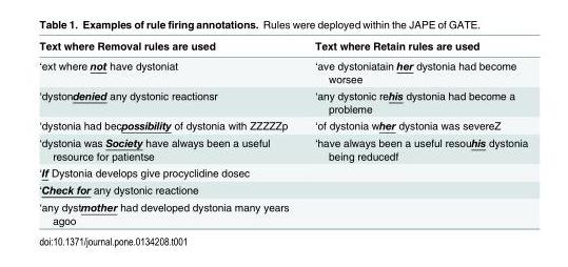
<table><thead><tr><td>Text where Removal rules are used</td><td>Text where Retain rules are used</td></tr></thead><tbody><tr><td>‘ext where not have dystoniat</td><td>‘ave dystoniatain her dystonia had become worsee</td></tr><tr><td>‘dystondenied any dystonic reactionsr</td><td>‘any dystonic rehis dystonia had become a probleme</td></tr><tr><td>‘dystonia had becpossibility of dystonia with ZZZZZp</td><td>‘of dystonia wher dystonia was severeZ</td></tr><tr><td>‘dystonia was Society have always been a useful resource for patientse</td><td>‘have always been a useful resouhis dystonia being reducedf</td></tr><tr><td colspan="2">‘If Dystonia develops give procyclidine dosec</td></tr><tr><td colspan="2">‘Check for any dystonic reactione</td></tr><tr><td>‘any dystmother had developed dystonia many years agoo</td><td></td></tr></tbody></table>